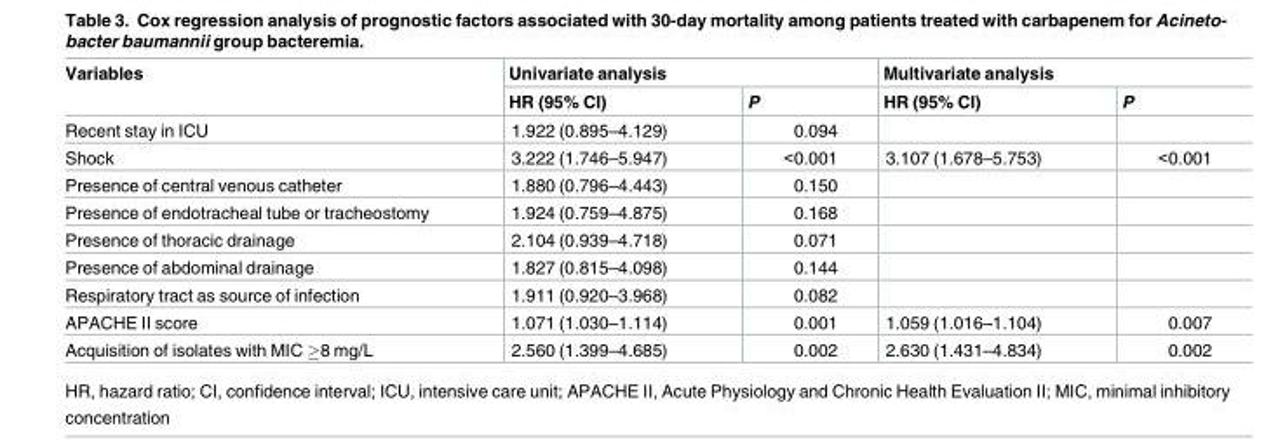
<table><thead><tr><td rowspan="2">Variables</td><td colspan="2">Univariate analysis</td><td colspan="2">Multivariate analysis</td></tr><tr><td>HR (95% CI)</td><td>P</td><td>HR (95% CI)</td><td>P</td></tr></thead><tbody><tr><td>Recent stay in ICU</td><td>1.922 (0.895–4.129)</td><td>0.094</td><td></td><td></td></tr><tr><td>Shock</td><td>3.222 (1.746–5.947)</td><td>&lt;0.001</td><td>3.107 (1.678–5.753)</td><td>&lt;0.001</td></tr><tr><td>Presence of central venous catheter</td><td>1.880 (0.796–4.443)</td><td>0.150</td><td></td><td></td></tr><tr><td>Presence of endotracheal tube or tracheostomy</td><td>1.924 (0.759–4.875)</td><td>0.168</td><td></td><td></td></tr><tr><td>Presence of thoracic drainage</td><td>2.104 (0.939–4.718)</td><td>0.071</td><td></td><td></td></tr><tr><td>Presence of abdominal drainage</td><td>1.827 (0.815–4.098)</td><td>0.144</td><td></td><td></td></tr><tr><td>Respiratory tract as source of infection</td><td>1.911 (0.920–3.968)</td><td>0.082</td><td></td><td></td></tr><tr><td>APACHE II score</td><td>1.071 (1.030–1.114)</td><td>0.001</td><td>1.059 (1.016–1.104)</td><td>0.007</td></tr><tr><td>Acquisition of isolates with MIC ≥8 mg/L</td><td>2.560 (1.399–4.685)</td><td>0.002</td><td>2.630 (1.431–4.834)</td><td>0.002</td></tr></tbody></table>